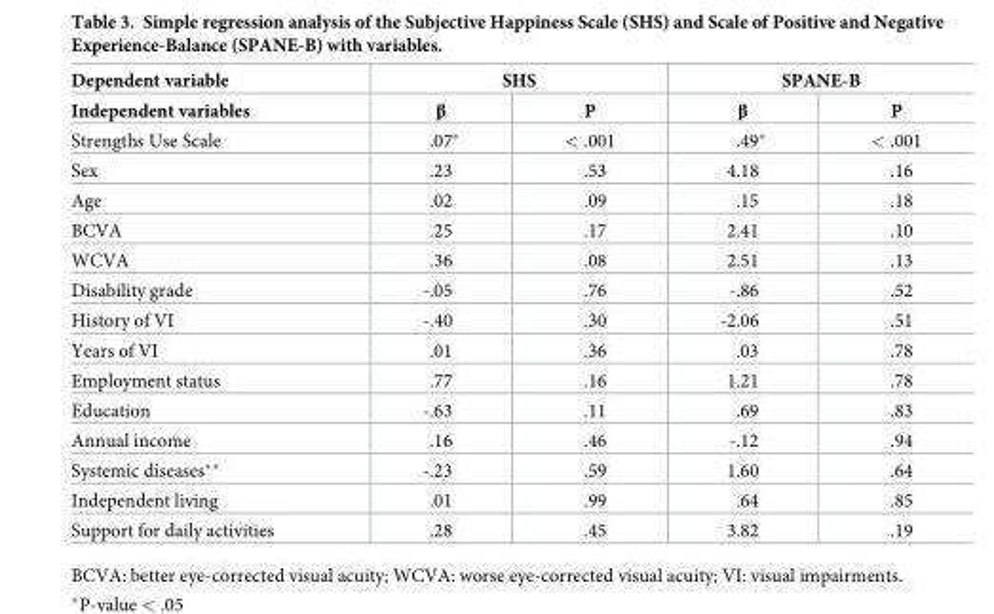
<table><thead><tr><td rowspan="2">Dependent variable Independent variables</td><td colspan="2">SHS</td><td colspan="2">SPANE-B</td></tr><tr><td>β</td><td>P</td><td>β</td><td>P</td></tr></thead><tbody><tr><td>Strengths Use Scale</td><td>.07*</td><td>&lt; .001</td><td>.49*</td><td>&lt; .001</td></tr><tr><td>Sex</td><td>.23</td><td>.53</td><td>4.18</td><td>.16</td></tr><tr><td>Age</td><td>.02</td><td>.09</td><td>.15</td><td>.18</td></tr><tr><td>BCVA</td><td>.25</td><td>.17</td><td>2.41</td><td>.10</td></tr><tr><td>WCVA</td><td>.36</td><td>.08</td><td>2.51</td><td>.13</td></tr><tr><td>Disability grade</td><td>-.05</td><td>.76</td><td>-.86</td><td>.52</td></tr><tr><td>History of VI</td><td>-.40</td><td>.30</td><td>-2.06</td><td>.51</td></tr><tr><td>Years of VI</td><td>.01</td><td>.36</td><td>.03</td><td>.78</td></tr><tr><td>Employment status</td><td>.77</td><td>.16</td><td>1.21</td><td>.78</td></tr><tr><td>Education</td><td>-.63</td><td>.11</td><td>.69</td><td>.83</td></tr><tr><td>Annual income</td><td>.16</td><td>.46</td><td>-.12</td><td>.94</td></tr><tr><td>Systemic diseases**</td><td>-.23</td><td>.59</td><td>1.60</td><td>.64</td></tr><tr><td>Independent living</td><td>.01</td><td>.99</td><td>.64</td><td>.85</td></tr><tr><td>Support for daily activities</td><td>.28</td><td>.45</td><td>3.82</td><td>.19</td></tr></tbody></table>